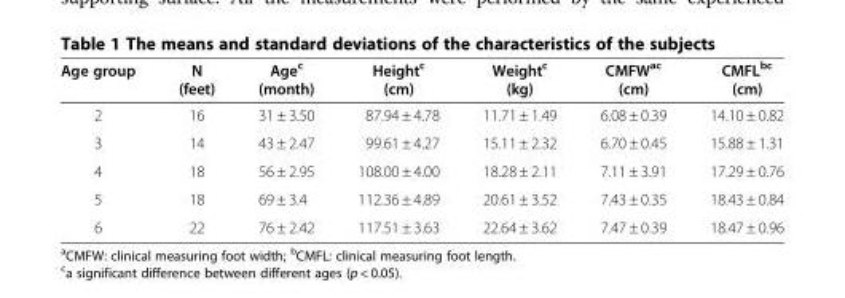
<table><thead><tr><td>Age group</td><td>N (feet)</td><td>Age<sup>c</sup> (month)</td><td>Height<sup>c</sup> (cm)</td><td>Weight<sup>c</sup> (kg)</td><td>CMFW<sup>ac</sup> (cm)</td><td>CMFL<sup>bc</sup> (cm)</td></tr></thead><tbody><tr><td>2</td><td>16</td><td>31 ± 3.50</td><td>87.94 ± 4.78</td><td>11.71 ± 1.49</td><td>6.08 ± 0.39</td><td>14.10 ± 0.82</td></tr><tr><td>3</td><td>14</td><td>43 ± 2.47</td><td>99.61 ± 4.27</td><td>15.11 ± 2.32</td><td>6.70 ± 0.45</td><td>15.88 ± 1.31</td></tr><tr><td>4</td><td>18</td><td>56 ± 2.95</td><td>108.00 ± 4.00</td><td>18.28 ± 2.11</td><td>7.11 ± 3.91</td><td>17.29 ± 0.76</td></tr><tr><td>5</td><td>18</td><td>69 ± 3.4</td><td>112.36 ± 4.89</td><td>20.61 ± 3.52</td><td>7.43 ± 0.35</td><td>18.43 ± 0.84</td></tr><tr><td>6</td><td>22</td><td>76 ± 2.42</td><td>117.51 ± 3.63</td><td>22.64 ± 3.62</td><td>7.47 ± 0.39</td><td>18.47 ± 0.96</td></tr></tbody></table>